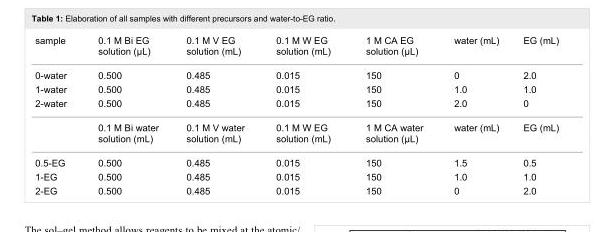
<table><tbody><tr><td>sample</td><td>0.1 M Bi EG solution (µL)</td><td>0.1 M V EG solution (mL)</td><td>0.1 M W EG solution (mL)</td><td>1 M CA EG solution (µL)</td><td>water (mL)</td><td>EG (mL)</td></tr><tr><td>0-water</td><td>0.500</td><td>0.485</td><td>0.015</td><td>150</td><td>0</td><td>2.0</td></tr><tr><td>1-water</td><td>0.500</td><td>0.485</td><td>0.015</td><td>150</td><td>1.0</td><td>1.0</td></tr><tr><td rowspan="2">2-water</td><td>0.500</td><td>0.485</td><td>0.015</td><td>150</td><td>2.0</td><td>0</td></tr><tr><td>0.1 M Bi water solution (mL)</td><td>0.1 M V water solution (mL)</td><td>0.1 M W EG solution (mL)</td><td>1 M CA water solution (µL)</td><td>water (mL)</td><td>EG (mL)</td></tr><tr><td>0.5-EG</td><td>0.500</td><td>0.485</td><td>0.015</td><td>150</td><td>1.5</td><td>0.5</td></tr><tr><td>1-EG</td><td>0.500</td><td>0.485</td><td>0.015</td><td>150</td><td>1.0</td><td>1.0</td></tr><tr><td>2-EG</td><td>0.500</td><td>0.485</td><td>0.015</td><td>150</td><td>0</td><td>2.0</td></tr></tbody></table>